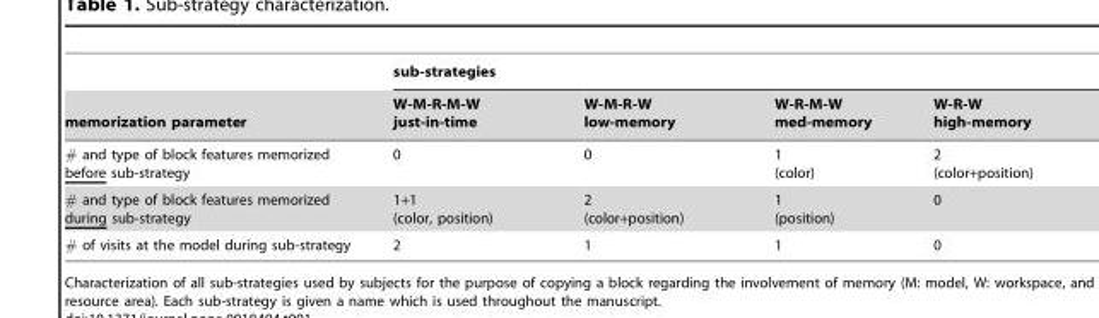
<table><thead><tr><td rowspan="2">memorization parameter</td><td colspan="4">sub-strategies</td></tr><tr><td>W-M-R-M-W just-in-time</td><td>W-M-R-W low-memory</td><td>W-R-M-W med-memory</td><td>W-R-W high-memory</td></tr></thead><tbody><tr><td># and type of block features memorized before sub-strategy</td><td>0</td><td>0</td><td>1 (color)</td><td>2 (color+position)</td></tr><tr><td># and type of block features memorized during sub-strategy</td><td>1+1 (color, position)</td><td>2 (color+position)</td><td>1 (position)</td><td>0</td></tr><tr><td># of visits at the model during sub-strategy</td><td>2</td><td>1</td><td>1</td><td>0</td></tr></tbody></table>